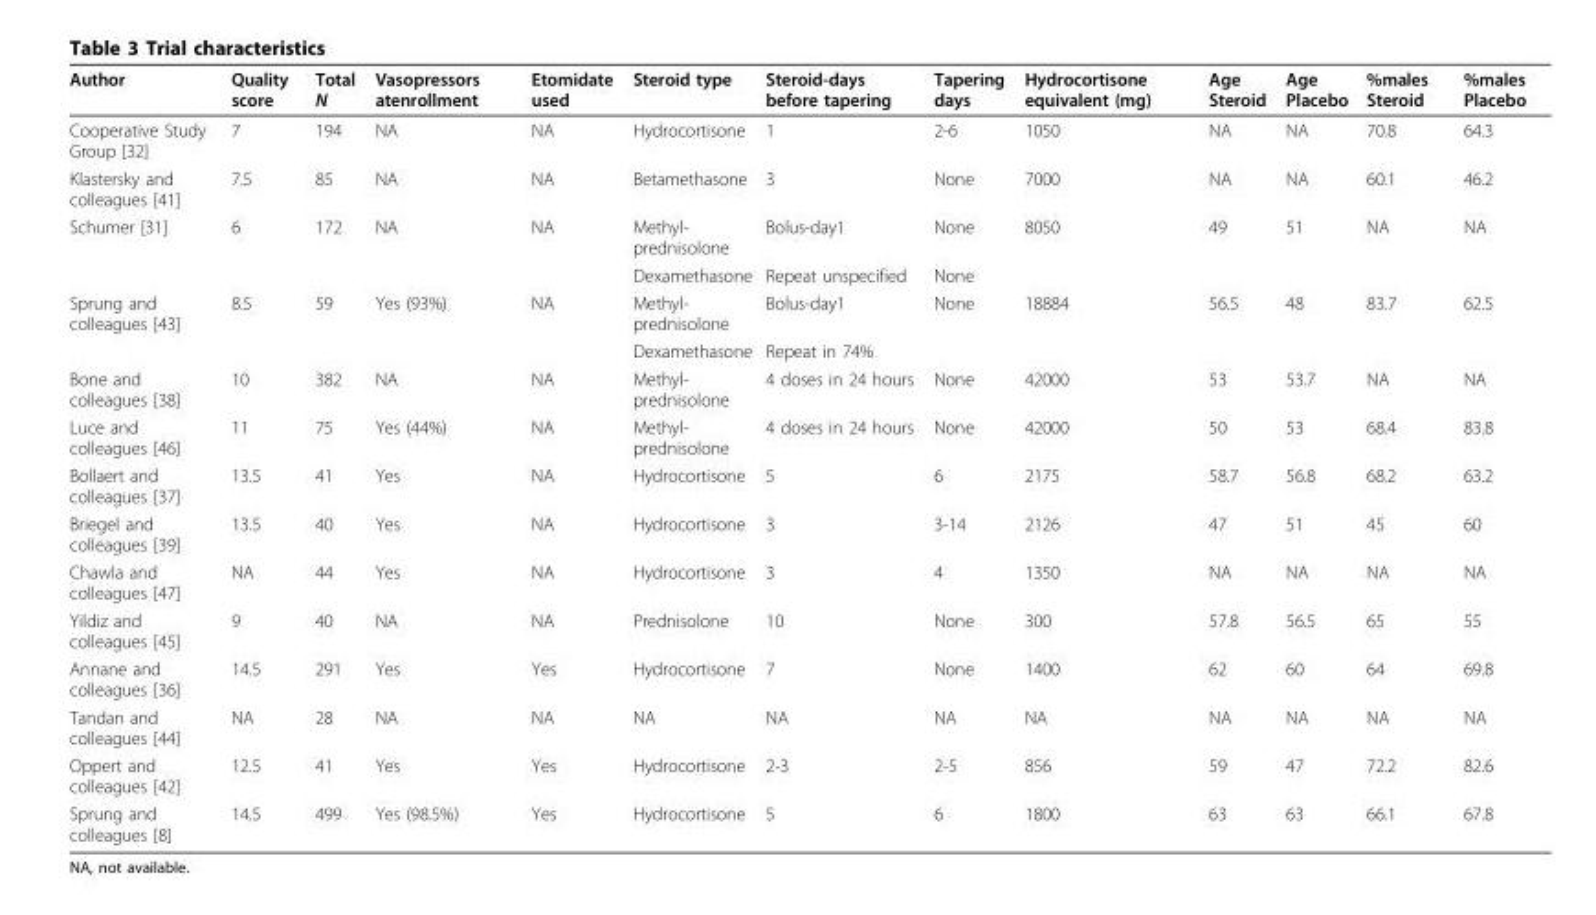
<table><thead><tr><td>Author</td><td>Quality score</td><td>Total N</td><td>Vasopressors atenrollment</td><td>Etomidate used</td><td>Steroid type</td><td>Steroid-days before tapering</td><td>Tapering days</td><td>Hydrocortisone equivalent (mg)</td><td>Age Steroid</td><td>Age Placebo</td><td>%males Steroid</td><td>%males Placebo</td></tr></thead><tbody><tr><td>Cooperative Study Group [32]</td><td>7</td><td>194</td><td>NA</td><td>NA</td><td>Hydrocortisone</td><td>1</td><td>2-6</td><td>1050</td><td>NA</td><td>NA</td><td>70.8</td><td>64.3</td></tr><tr><td>Klastersky and colleagues [41]</td><td>7.5</td><td>85</td><td>NA</td><td>NA</td><td>Betamethasone</td><td>3</td><td>None</td><td>7000</td><td>NA</td><td>NA</td><td>60.1</td><td>46.2</td></tr><tr><td rowspan="2">Schumer [31]</td><td>6</td><td>172</td><td>NA</td><td>NA</td><td>Methyl- prednisolone</td><td>Bolus-day1</td><td>None</td><td>8050</td><td>49</td><td>51</td><td>NA</td><td>NA</td></tr><tr><td></td><td></td><td></td><td></td><td>Dexamethasone</td><td>Repeat unspecified</td><td>None</td><td></td><td></td><td></td><td></td><td></td></tr><tr><td rowspan="2">Sprung and colleagues [43]</td><td>8.5</td><td>59</td><td>Yes (93%)</td><td>NA</td><td>Methyl- prednisolone</td><td>Bolus-day1</td><td>None</td><td>18884</td><td>56.5</td><td>48</td><td>83.7</td><td>62.5</td></tr><tr><td></td><td></td><td></td><td></td><td>Dexamethasone</td><td>Repeat in 74%</td><td></td><td></td><td></td><td></td><td></td><td></td></tr><tr><td>Bone and colleagues [38]</td><td>10</td><td>382</td><td>NA</td><td>NA</td><td>Methyl- prednisolone</td><td>4 doses in 24 hours</td><td>None</td><td>42000</td><td>53</td><td>53.7</td><td>NA</td><td>NA</td></tr><tr><td>Luce and colleagues [46]</td><td>11</td><td>75</td><td>Yes (44%)</td><td>NA</td><td>Methyl- prednisolone</td><td>4 doses in 24 hours</td><td>None</td><td>42000</td><td>50</td><td>53</td><td>68.4</td><td>83.8</td></tr><tr><td>Bollaert and colleagues [37]</td><td>13.5</td><td>41</td><td>Yes</td><td>NA</td><td>Hydrocortisone</td><td>5</td><td>6</td><td>2175</td><td>58.7</td><td>56.8</td><td>68.2</td><td>63.2</td></tr><tr><td>Briegel and colleagues [39]</td><td>13.5</td><td>40</td><td>Yes</td><td>NA</td><td>Hydrocortisone</td><td>3</td><td>3-14</td><td>2126</td><td>47</td><td>51</td><td>45</td><td>60</td></tr><tr><td>Chawla and colleagues [47]</td><td>NA</td><td>44</td><td>Yes</td><td>NA</td><td>Hydrocortisone</td><td>3</td><td>4</td><td>1350</td><td>NA</td><td>NA</td><td>NA</td><td>NA</td></tr><tr><td>Yildiz and colleagues [45]</td><td>9</td><td>40</td><td>NA</td><td>NA</td><td>Prednisolone</td><td>10</td><td>None</td><td>300</td><td>57.8</td><td>56.5</td><td>65</td><td>55</td></tr><tr><td>Annane and colleagues [36]</td><td>14.5</td><td>291</td><td>Yes</td><td>Yes</td><td>Hydrocortisone</td><td>7</td><td>None</td><td>1400</td><td>62</td><td>60</td><td>64</td><td>69.8</td></tr><tr><td>Tandan and colleagues [44]</td><td>NA</td><td>28</td><td>NA</td><td>NA</td><td>NA</td><td>NA</td><td>NA</td><td>NA</td><td>NA</td><td>NA</td><td>NA</td><td>NA</td></tr><tr><td>Oppert and colleagues [42]</td><td>12.5</td><td>41</td><td>Yes</td><td>Yes</td><td>Hydrocortisone</td><td>2-3</td><td>2-5</td><td>856</td><td>59</td><td>47</td><td>72.2</td><td>82.6</td></tr><tr><td>Sprung and colleagues [8]</td><td>14.5</td><td>499</td><td>Yes (98.5%)</td><td>Yes</td><td>Hydrocortisone</td><td>5</td><td>6</td><td>1800</td><td>63</td><td>63</td><td>66.1</td><td>67.8</td></tr></tbody></table>